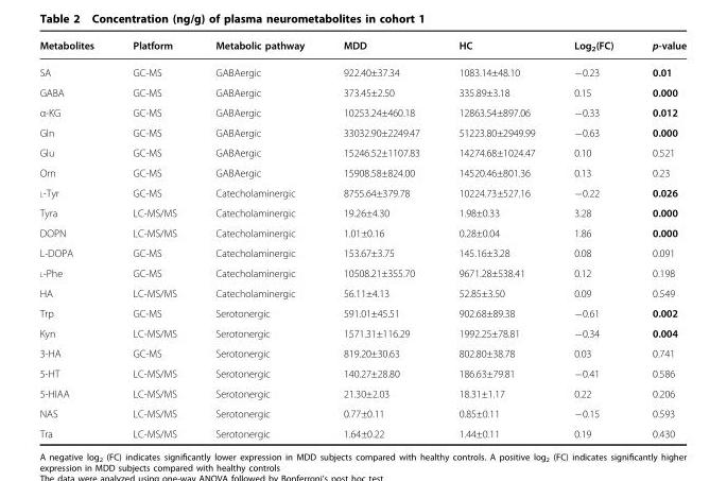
<table><thead><tr><td>Metabolites</td><td>Platform</td><td>Metabolic pathway</td><td>MDD</td><td>HC</td><td>Log<sub>2</sub>(FC)</td><td>p-value</td></tr></thead><tbody><tr><td>SA</td><td>GC-MS</td><td>GABAergic</td><td>922.40±37.34</td><td>1083.14±48.10</td><td>−0.23</td><td>0.01</td></tr><tr><td>GABA</td><td>GC-MS</td><td>GABAergic</td><td>373.45±2.50</td><td>335.89±3.18</td><td>0.15</td><td>0.000</td></tr><tr><td>α-KG</td><td>GC-MS</td><td>GABAergic</td><td>10253.24±460.18</td><td>12863.54±897.06</td><td>−0.33</td><td>0.012</td></tr><tr><td>Gln</td><td>GC-MS</td><td>GABAergic</td><td>33032.90±2249.47</td><td>51223.80±2949.99</td><td>−0.63</td><td>0.000</td></tr><tr><td>Glu</td><td>GC-MS</td><td>GABAergic</td><td>15246.52±1107.83</td><td>14274.68±1024.47</td><td>0.10</td><td>0.521</td></tr><tr><td>Orn</td><td>GC-MS</td><td>GABAergic</td><td>15908.58±824.00</td><td>14520.46±801.36</td><td>0.13</td><td>0.23</td></tr><tr><td>L-Tyr</td><td>GC-MS</td><td>Catecholaminergic</td><td>8755.64±379.78</td><td>10224.73±527.16</td><td>−0.22</td><td>0.026</td></tr><tr><td>Tyra</td><td>LC-MS/MS</td><td>Catecholaminergic</td><td>19.26±4.30</td><td>1.98±0.33</td><td>3.28</td><td>0.000</td></tr><tr><td>DOPN</td><td>LC-MS/MS</td><td>Catecholaminergic</td><td>1.01±0.16</td><td>0.28±0.04</td><td>1.86</td><td>0.000</td></tr><tr><td>L-DOPA</td><td>GC-MS</td><td>Catecholaminergic</td><td>153.67±3.75</td><td>145.16±3.28</td><td>0.08</td><td>0.091</td></tr><tr><td>L-Phe</td><td>GC-MS</td><td>Catecholaminergic</td><td>10508.21±355.70</td><td>9671.28±538.41</td><td>0.12</td><td>0.198</td></tr><tr><td>HA</td><td>LC-MS/MS</td><td>Catecholaminergic</td><td>56.11±4.13</td><td>52.85±3.50</td><td>0.09</td><td>0.549</td></tr><tr><td>Trp</td><td>GC-MS</td><td>Serotonergic</td><td>591.01±45.51</td><td>902.68±89.38</td><td>−0.61</td><td>0.002</td></tr><tr><td>Kyn</td><td>LC-MS/MS</td><td>Serotonergic</td><td>1571.31±116.29</td><td>1992.25±78.81</td><td>−0.34</td><td>0.004</td></tr><tr><td>3-HA</td><td>GC-MS</td><td>Serotonergic</td><td>819.20±30.63</td><td>802.80±38.78</td><td>0.03</td><td>0.741</td></tr><tr><td>5-HT</td><td>LC-MS/MS</td><td>Serotonergic</td><td>140.27±28.80</td><td>186.63±79.81</td><td>−0.41</td><td>0.586</td></tr><tr><td>5-HIAA</td><td>LC-MS/MS</td><td>Serotonergic</td><td>21.30±2.03</td><td>18.31±1.17</td><td>0.22</td><td>0.206</td></tr><tr><td>NAS</td><td>LC-MS/MS</td><td>Serotonergic</td><td>0.77±0.11</td><td>0.85±0.11</td><td>−0.15</td><td>0.593</td></tr><tr><td>Tra</td><td>LC-MS/MS</td><td>Serotonergic</td><td>1.64±0.22</td><td>1.44±0.11</td><td>0.19</td><td>0.430</td></tr></tbody></table>